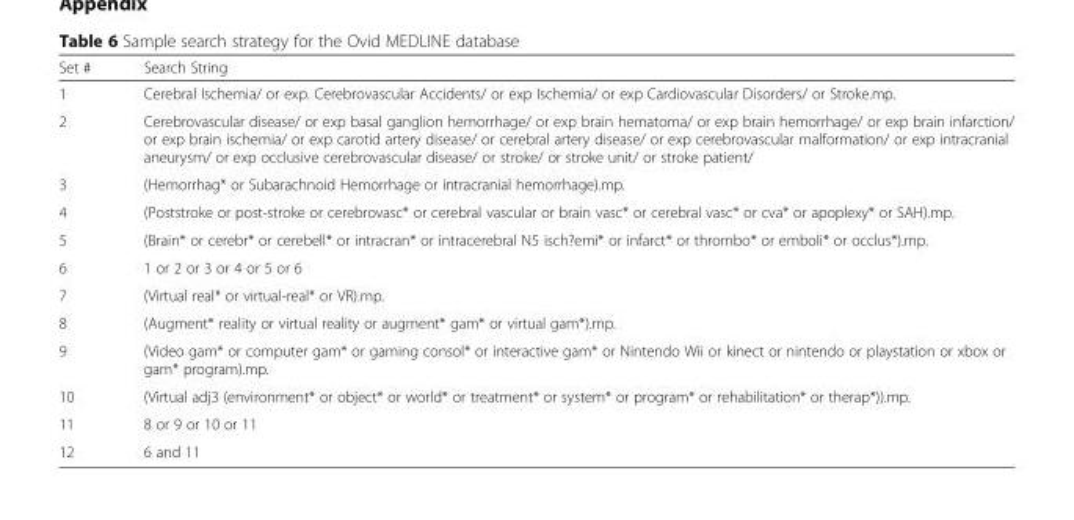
<table><thead><tr><td>Set #</td><td>Search String</td></tr></thead><tbody><tr><td>1</td><td>Cerebral Ischemia/ or exp. Cerebrovascular Accidents/ or exp Ischemia/ or exp Cardiovascular Disorders/ or Stroke.mp.</td></tr><tr><td>2</td><td>Cerebrovascular disease/ or exp basal ganglion hemorrhage/ or exp brain hematoma/ or exp brain hemorrhage/ or exp brain infarction/ or exp brain ischemia/ or exp carotid artery disease/ or cerebral artery disease/ or exp cerebrovascular malformation/ or exp intracranial aneurysm/ or exp occlusive cerebrovascular disease/ or stroke/ or stroke unit/ or stroke patient/</td></tr><tr><td>3</td><td>(Hemorrhag* or Subarachnoid Hemorrhage or intracranial hemorrhage).mp.</td></tr><tr><td>4</td><td>(Poststroke or post-stroke or cerebrovasc* or cerebral vascular or brain vasc* or cerebral vasc* or cva* or apoplexy* or SAH).mp.</td></tr><tr><td>5</td><td>(Brain* or cerebr* or cerebell* or intracran* or intracerebral N5 isch?emi* or infarct* or thrombo* or emboli* or occlus*).mp.</td></tr><tr><td>6</td><td>1 or 2 or 3 or 4 or 5 or 6</td></tr><tr><td>7</td><td>(Virtual real* or virtual-real* or VR).mp.</td></tr><tr><td>8</td><td>(Augment* reality or virtual reality or augment* gam* or virtual gam*).mp.</td></tr><tr><td>9</td><td>(Video gam* or computer gam* or gaming consol* or interactive gam* or Nintendo Wii or kinect or nintendo or playstation or xbox or gam* program).mp.</td></tr><tr><td>10</td><td>(Virtual adj3 (environment* or object* or world* or treatment* or system* or program* or rehabilitation* or therap*)).mp.</td></tr><tr><td>11</td><td>8 or 9 or 10 or 11</td></tr><tr><td>12</td><td>6 and 11</td></tr></tbody></table>